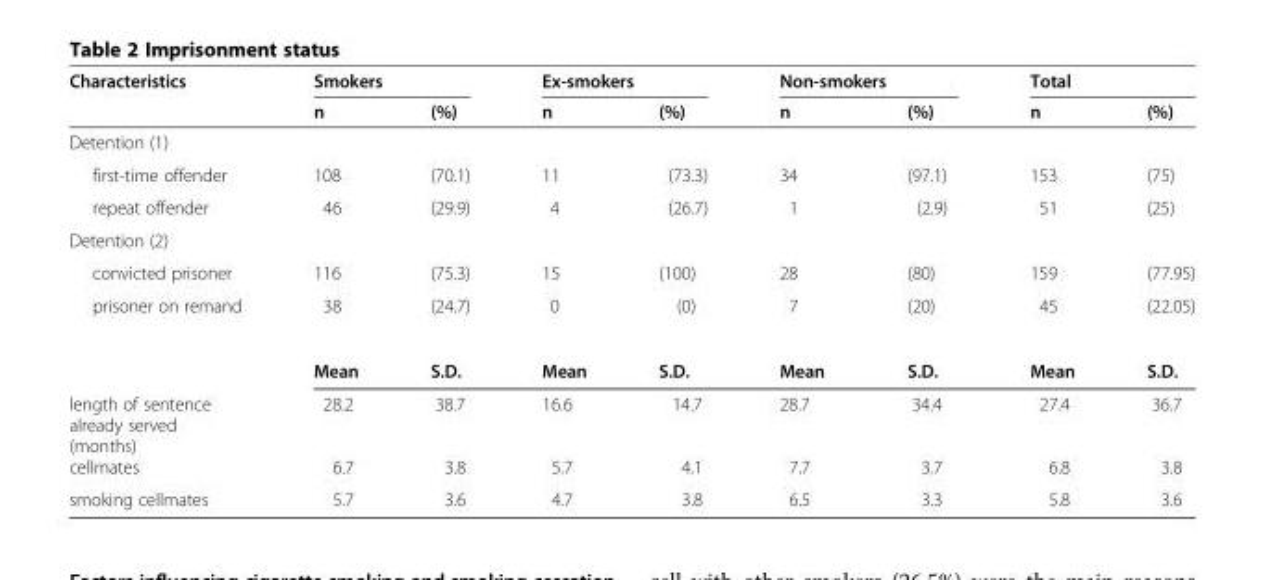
<table><thead><tr><td rowspan="2">Characteristics</td><td colspan="2">Smokers</td><td colspan="2">Ex-smokers</td><td colspan="2">Non-smokers</td><td colspan="2">Total</td></tr><tr><td>n</td><td>(%)</td><td>n</td><td>(%)</td><td>n</td><td>(%)</td><td>n</td><td>(%)</td></tr><tr><td colspan="9">Detention (1)</td></tr></thead><tbody><tr><td>first-time offender</td><td>108</td><td>(70.1)</td><td>11</td><td>(73.3)</td><td>34</td><td>(97.1)</td><td>153</td><td>(75)</td></tr><tr><td>repeat offender</td><td>46</td><td>(29.9)</td><td>4</td><td>(26.7)</td><td>1</td><td>(2.9)</td><td>51</td><td>(25)</td></tr><tr><td colspan="9">Detention (2)</td></tr><tr><td>convicted prisoner</td><td>116</td><td>(75.3)</td><td>15</td><td>(100)</td><td>28</td><td>(80)</td><td>159</td><td>(77.95)</td></tr><tr><td rowspan="2">prisoner on remand</td><td>38</td><td>(24.7)</td><td>0</td><td>(0)</td><td>7</td><td>(20)</td><td>45</td><td>(22.05)</td></tr><tr><td>Mean</td><td>S.D.</td><td>Mean</td><td>S.D.</td><td>Mean</td><td>S.D.</td><td>Mean</td><td>S.D.</td></tr><tr><td>length of sentence already served (months)</td><td>28.2</td><td>38.7</td><td>16.6</td><td>14.7</td><td>28.7</td><td>34.4</td><td>27.4</td><td>36.7</td></tr><tr><td>cellmates</td><td>6.7</td><td>3.8</td><td>5.7</td><td>4.1</td><td>7.7</td><td>3.7</td><td>6.8</td><td>3.8</td></tr><tr><td>smoking cellmates</td><td>5.7</td><td>3.6</td><td>4.7</td><td>3.8</td><td>6.5</td><td>3.3</td><td>5.8</td><td>3.6</td></tr></tbody></table>